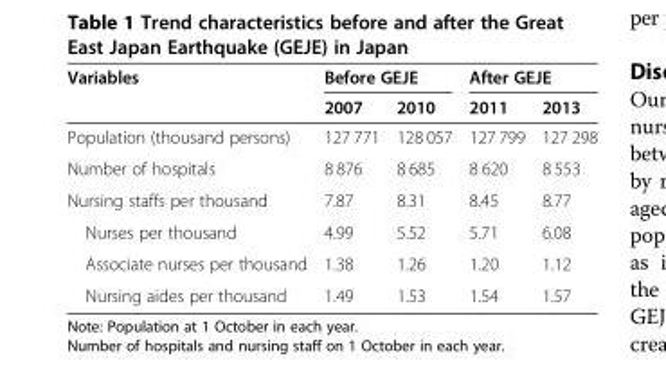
<table><thead><tr><td rowspan="2">Variables</td><td colspan="2">Before GEJE</td><td colspan="2">After GEJE</td></tr><tr><td>2007</td><td>2010</td><td>2011</td><td>2013</td></tr></thead><tbody><tr><td>Population (thousand persons)</td><td>127 771</td><td>128 057</td><td>127 799</td><td>127 298</td></tr><tr><td>Number of hospitals</td><td>8 876</td><td>8 685</td><td>8 620</td><td>8 553</td></tr><tr><td>Nursing staffs per thousand</td><td>7.87</td><td>8.31</td><td>8.45</td><td>8.77</td></tr><tr><td>Nurses per thousand</td><td>4.99</td><td>5.52</td><td>5.71</td><td>6.08</td></tr><tr><td>Associate nurses per thousand</td><td>1.38</td><td>1.26</td><td>1.20</td><td>1.12</td></tr><tr><td>Nursing aides per thousand</td><td>1.49</td><td>1.53</td><td>1.54</td><td>1.57</td></tr></tbody></table>